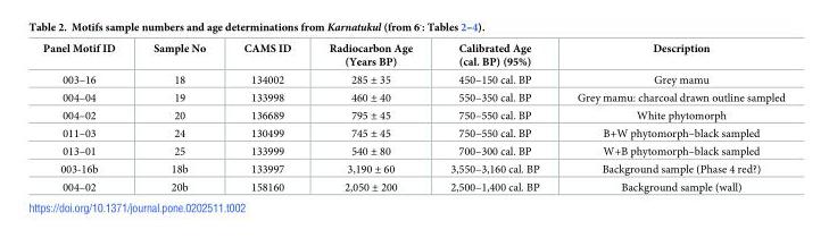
<table><thead><tr><td>Panel Motif ID</td><td>Sample No</td><td>CAMS ID</td><td>Radiocarbon Age (Years BP)</td><td>Calibrated Age (cal. BP) (95%)</td><td>Description</td></tr></thead><tbody><tr><td>003–16</td><td>18</td><td>134002</td><td>285 ± 35</td><td>450–150 cal. BP</td><td>Grey mamu</td></tr><tr><td>004–04</td><td>19</td><td>133998</td><td>460 ± 40</td><td>550–350 cal. BP</td><td>Grey mamu: charcoal drawn outline sampled</td></tr><tr><td>004–02</td><td>20</td><td>136689</td><td>795 ± 45</td><td>750–550 cal. BP</td><td>White phytomorph</td></tr><tr><td>011–03</td><td>24</td><td>130499</td><td>745 ± 45</td><td>750–550 cal. BP</td><td>B+W phytomorph–black sampled</td></tr><tr><td>013–01</td><td>25</td><td>133999</td><td>540 ± 80</td><td>700–300 cal. BP</td><td>W+B phytomorph–black sampled</td></tr><tr><td>003-16b</td><td>18b</td><td>133997</td><td>3,190 ± 60</td><td>3,550–3,160 cal. BP</td><td>Background sample (Phase 4 red?)</td></tr><tr><td>004–02</td><td>20b</td><td>158160</td><td>2,050 ± 200</td><td>2,500–1,400 cal. BP</td><td>Background sample (wall)</td></tr></tbody></table>